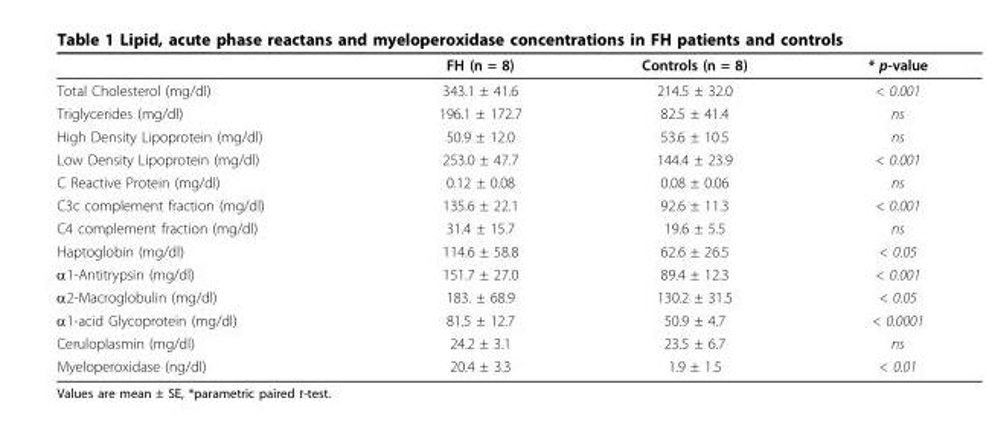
<table><thead><tr><td></td><td>FH (n = 8)</td><td>Controls (n = 8)</td><td>* p-value</td></tr></thead><tbody><tr><td>Total Cholesterol (mg/dl)</td><td>343.1 ± 41.6</td><td>214.5 ± 32.0</td><td>&lt; 0.001</td></tr><tr><td>Triglycerides (mg/dl)</td><td>196.1 ± 172.7</td><td>82.5 ± 41.4</td><td>ns</td></tr><tr><td>High Density Lipoprotein (mg/dl)</td><td>50.9 ± 12.0</td><td>53.6 ± 10.5</td><td>ns</td></tr><tr><td>Low Density Lipoprotein (mg/dl)</td><td>253.0 ± 47.7</td><td>144.4 ± 23.9</td><td>&lt; 0.001</td></tr><tr><td>C Reactive Protein (mg/dl)</td><td>0.12 ± 0.08</td><td>0.08 ± 0.06</td><td>ns</td></tr><tr><td>C3c complement fraction (mg/dl)</td><td>135.6 ± 22.1</td><td>92.6 ± 11.3</td><td>&lt; 0.001</td></tr><tr><td>C4 complement fraction (mg/dl)</td><td>31.4 ± 15.7</td><td>19.6 ± 5.5</td><td>ns</td></tr><tr><td>Haptoglobin (mg/dl)</td><td>114.6 ± 58.8</td><td>62.6 ± 26.5</td><td>&lt; 0.05</td></tr><tr><td>α1-Antitrypsin (mg/dl)</td><td>151.7 ± 27.0</td><td>89.4 ± 12.3</td><td>&lt; 0.001</td></tr><tr><td>α2-Macroglobulin (mg/dl)</td><td>183. ± 68.9</td><td>130.2 ± 31.5</td><td>&lt; 0.05</td></tr><tr><td>α1-acid Glycoprotein (mg/dl)</td><td>81.5 ± 12.7</td><td>50.9 ± 4.7</td><td>&lt; 0.0001</td></tr><tr><td>Ceruloplasmin (mg/dl)</td><td>24.2 ± 3.1</td><td>23.5 ± 6.7</td><td>ns</td></tr><tr><td>Myeloperoxidase (ng/dl)</td><td>20.4 ± 3.3</td><td>1.9 ± 1.5</td><td>&lt; 0.01</td></tr></tbody></table>